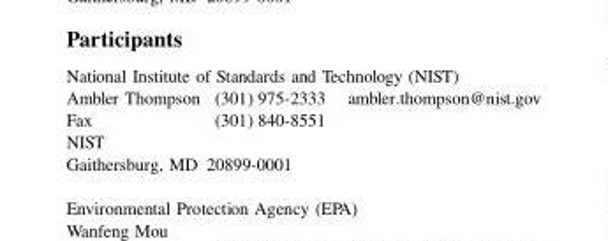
<table><tbody><tr><td colspan="3">National Institute of Standards and Technology (NIST)</td></tr><tr><td>Ambler Thompson</td><td>(301) 975-2333</td><td>ambler.thompson@nist.gov</td></tr><tr><td>Fax</td><td>(301) 840-8551</td><td></td></tr><tr><td colspan="3">NIST</td></tr><tr><td colspan="2">Gaithersburg, MD 20899-0001</td><td></td></tr></tbody></table>